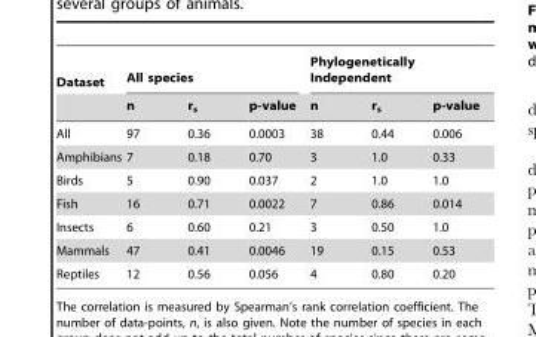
<table><thead><tr><td rowspan="2">Dataset</td><td colspan="3">All species</td><td colspan="3">Phylogenetically Independent</td></tr><tr><td>n</td><td>r<sub>s</sub></td><td>p-value</td><td>n</td><td>r<sub>s</sub></td><td>p-value</td></tr></thead><tbody><tr><td>All</td><td>97</td><td>0.36</td><td>0.0003</td><td>38</td><td>0.44</td><td>0.006</td></tr><tr><td>Amphibians</td><td>7</td><td>0.18</td><td>0.70</td><td>3</td><td>1.0</td><td>0.33</td></tr><tr><td>Birds</td><td>5</td><td>0.90</td><td>0.037</td><td>2</td><td>1.0</td><td>1.0</td></tr><tr><td>Fish</td><td>16</td><td>0.71</td><td>0.0022</td><td>7</td><td>0.86</td><td>0.014</td></tr><tr><td>Insects</td><td>6</td><td>0.60</td><td>0.21</td><td>3</td><td>0.50</td><td>1.0</td></tr><tr><td>Mammals</td><td>47</td><td>0.41</td><td>0.0046</td><td>19</td><td>0.15</td><td>0.53</td></tr><tr><td>Reptiles</td><td>12</td><td>0.56</td><td>0.056</td><td>4</td><td>0.80</td><td>0.20</td></tr></tbody></table>